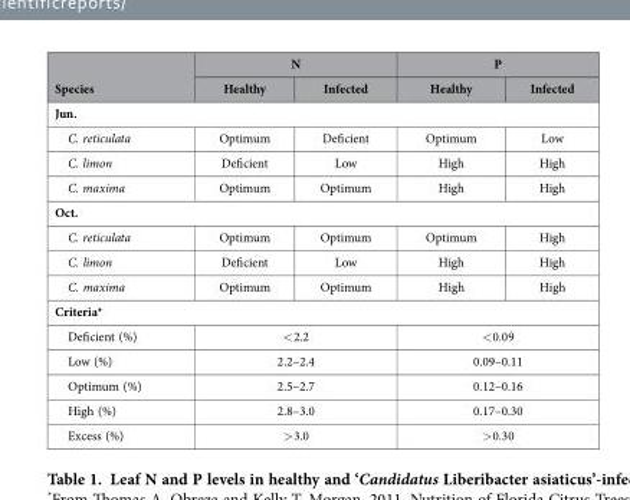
<table><thead><tr><td rowspan="2">Species</td><td colspan="2">N</td><td colspan="2">P</td></tr><tr><td>Healthy</td><td>Infected</td><td>Healthy</td><td>Infected</td></tr></thead><tbody><tr><td colspan="5">Jun.</td></tr><tr><td>C. reticulata</td><td>Optimum</td><td>Deficient</td><td>Optimum</td><td>Low</td></tr><tr><td>C. limon</td><td>Deficient</td><td>Low</td><td>High</td><td>High</td></tr><tr><td>C. maxima</td><td>Optimum</td><td>Optimum</td><td>High</td><td>High</td></tr><tr><td colspan="5">Oct.</td></tr><tr><td>C. reticulata</td><td>Optimum</td><td>Optimum</td><td>Optimum</td><td>High</td></tr><tr><td>C. limon</td><td>Deficient</td><td>Low</td><td>High</td><td>High</td></tr><tr><td>C. maxima</td><td>Optimum</td><td>Optimum</td><td>High</td><td>High</td></tr><tr><td colspan="5">Criteria*</td></tr><tr><td>Deficient (%)</td><td colspan="2">&lt; 2.2</td><td colspan="2">&lt; 0.09</td></tr><tr><td>Low (%)</td><td colspan="2">2.2–2.4</td><td colspan="2">0.09–0.11</td></tr><tr><td>Optimum (%)</td><td colspan="2">2.5–2.7</td><td colspan="2">0.12–0.16</td></tr><tr><td>High (%)</td><td colspan="2">2.8–3.0</td><td colspan="2">0.17–0.30</td></tr><tr><td>Excess (%)</td><td colspan="2">&gt; 3.0</td><td colspan="2">&gt; 0.30</td></tr></tbody></table>